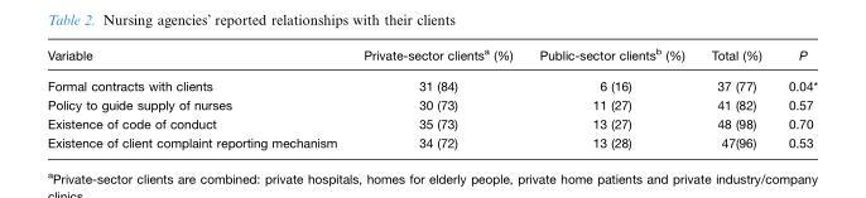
<table><thead><tr><td>Variable</td><td>Private-sector clients<sup>a</sup> (%)</td><td>Public-sector clients<sup>b</sup> (%)</td><td>Total (%)</td><td>P</td></tr></thead><tbody><tr><td>Formal contracts with clients</td><td>31 (84)</td><td>6 (16)</td><td>37 (77)</td><td>0.04*</td></tr><tr><td>Policy to guide supply of nurses</td><td>30 (73)</td><td>11 (27)</td><td>41 (82)</td><td>0.57</td></tr><tr><td>Existence of code of conduct</td><td>35 (73)</td><td>13 (27)</td><td>48 (98)</td><td>0.70</td></tr><tr><td>Existence of client complaint reporting mechanism</td><td>34 (72)</td><td>13 (28)</td><td>47(96)</td><td>0.53</td></tr></tbody></table>